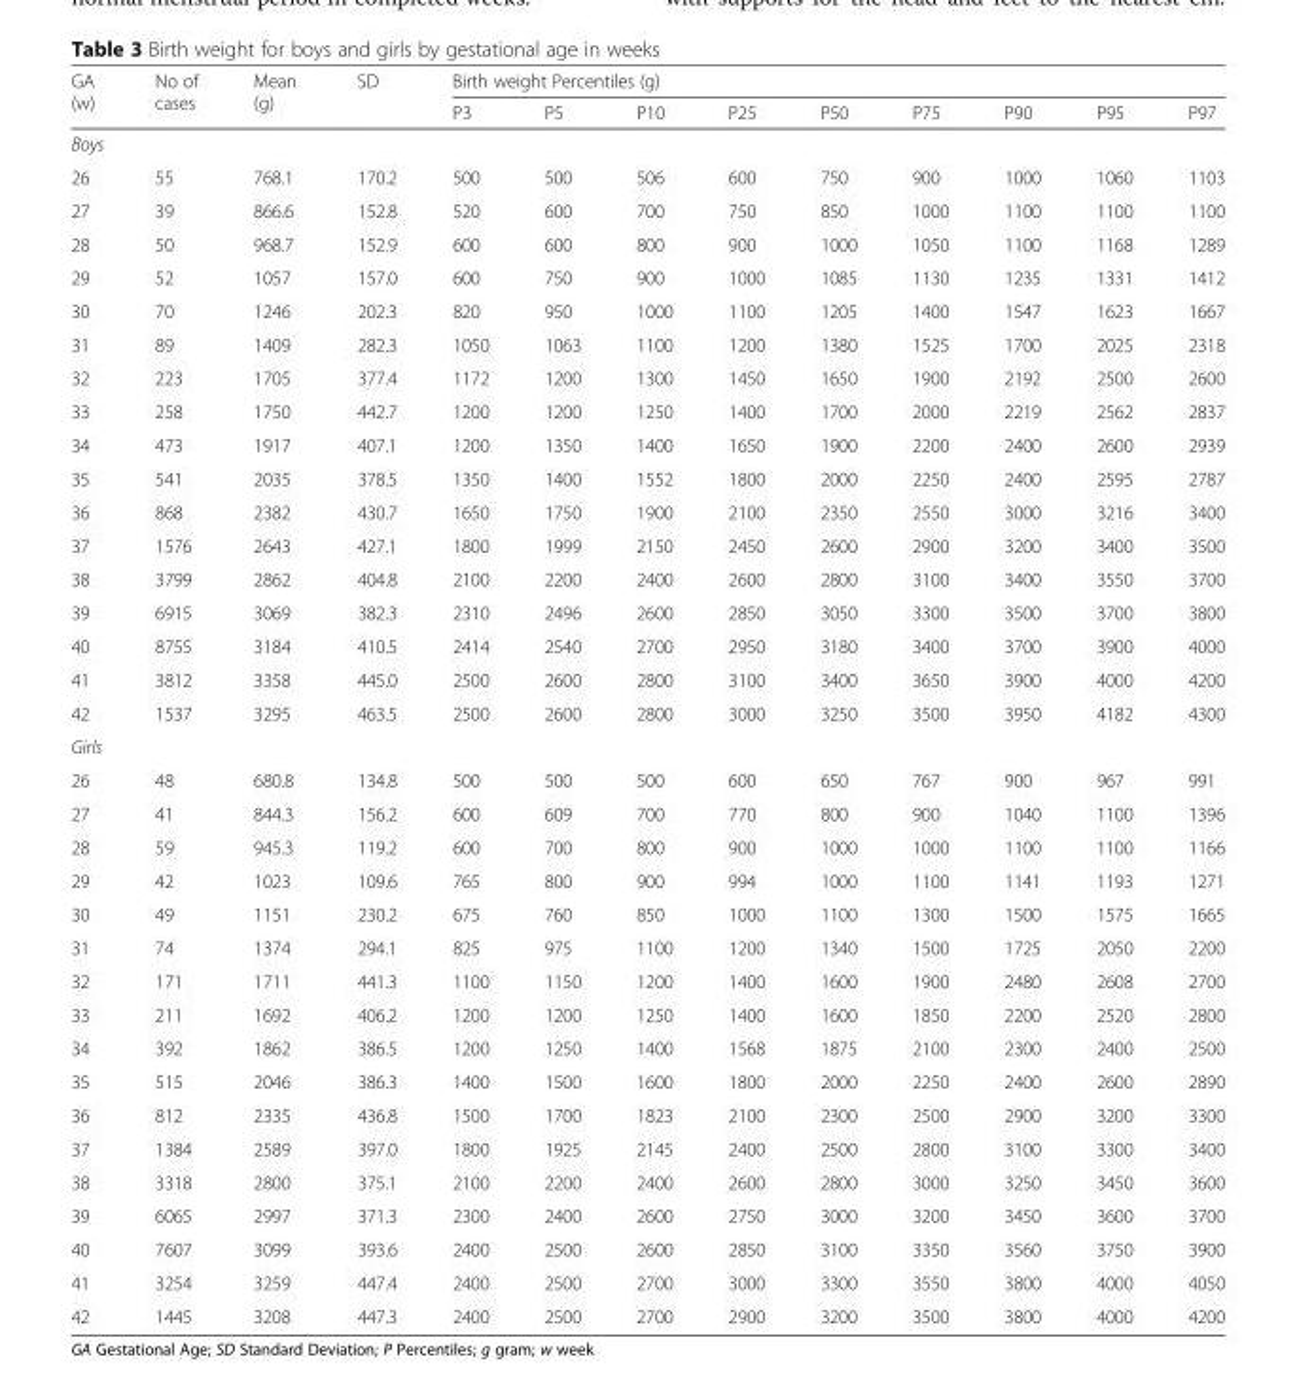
<table><thead><tr><td rowspan="2">GA (w)</td><td rowspan="2">No of cases</td><td rowspan="2">Mean (g)</td><td rowspan="2">SD</td><td colspan="9">Birth weight Percentiles (g)</td></tr><tr><td>P3</td><td>P5</td><td>P10</td><td>P25</td><td>P50</td><td>P75</td><td>P90</td><td>P95</td><td>P97</td></tr></thead><tbody><tr><td colspan="13">Boys</td></tr><tr><td>26</td><td>55</td><td>768.1</td><td>170.2</td><td>500</td><td>500</td><td>506</td><td>600</td><td>750</td><td>900</td><td>1000</td><td>1060</td><td>1103</td></tr><tr><td>27</td><td>39</td><td>866.6</td><td>152.8</td><td>520</td><td>600</td><td>700</td><td>750</td><td>850</td><td>1000</td><td>1100</td><td>1100</td><td>1100</td></tr><tr><td>28</td><td>50</td><td>968.7</td><td>152.9</td><td>600</td><td>600</td><td>800</td><td>900</td><td>1000</td><td>1050</td><td>1100</td><td>1168</td><td>1289</td></tr><tr><td>29</td><td>52</td><td>1057</td><td>157.0</td><td>600</td><td>750</td><td>900</td><td>1000</td><td>1085</td><td>1130</td><td>1235</td><td>1331</td><td>1412</td></tr><tr><td>30</td><td>70</td><td>1246</td><td>202.3</td><td>820</td><td>950</td><td>1000</td><td>1100</td><td>1205</td><td>1400</td><td>1547</td><td>1623</td><td>1667</td></tr><tr><td>31</td><td>89</td><td>1409</td><td>282.3</td><td>1050</td><td>1063</td><td>1100</td><td>1200</td><td>1380</td><td>1525</td><td>1700</td><td>2025</td><td>2318</td></tr><tr><td>32</td><td>223</td><td>1705</td><td>377.4</td><td>1172</td><td>1200</td><td>1300</td><td>1450</td><td>1650</td><td>1900</td><td>2192</td><td>2500</td><td>2600</td></tr><tr><td>33</td><td>258</td><td>1750</td><td>442.7</td><td>1200</td><td>1200</td><td>1250</td><td>1400</td><td>1700</td><td>2000</td><td>2219</td><td>2562</td><td>2837</td></tr><tr><td>34</td><td>473</td><td>1917</td><td>407.1</td><td>1200</td><td>1350</td><td>1400</td><td>1650</td><td>1900</td><td>2200</td><td>2400</td><td>2600</td><td>2939</td></tr><tr><td>35</td><td>541</td><td>2035</td><td>378.5</td><td>1350</td><td>1400</td><td>1552</td><td>1800</td><td>2000</td><td>2250</td><td>2400</td><td>2595</td><td>2787</td></tr><tr><td>36</td><td>868</td><td>2382</td><td>430.7</td><td>1650</td><td>1750</td><td>1900</td><td>2100</td><td>2350</td><td>2550</td><td>3000</td><td>3216</td><td>3400</td></tr><tr><td>37</td><td>1576</td><td>2643</td><td>427.1</td><td>1800</td><td>1999</td><td>2150</td><td>2450</td><td>2600</td><td>2900</td><td>3200</td><td>3400</td><td>3500</td></tr><tr><td>38</td><td>3799</td><td>2862</td><td>404.8</td><td>2100</td><td>2200</td><td>2400</td><td>2600</td><td>2800</td><td>3100</td><td>3400</td><td>3550</td><td>3700</td></tr><tr><td>39</td><td>6915</td><td>3069</td><td>382.3</td><td>2310</td><td>2496</td><td>2600</td><td>2850</td><td>3050</td><td>3300</td><td>3500</td><td>3700</td><td>3800</td></tr><tr><td>40</td><td>8755</td><td>3184</td><td>410.5</td><td>2414</td><td>2540</td><td>2700</td><td>2950</td><td>3180</td><td>3400</td><td>3700</td><td>3900</td><td>4000</td></tr><tr><td>41</td><td>3812</td><td>3358</td><td>445.0</td><td>2500</td><td>2600</td><td>2800</td><td>3100</td><td>3400</td><td>3650</td><td>3900</td><td>4000</td><td>4200</td></tr><tr><td>42</td><td>1537</td><td>3295</td><td>463.5</td><td>2500</td><td>2600</td><td>2800</td><td>3000</td><td>3250</td><td>3500</td><td>3950</td><td>4182</td><td>4300</td></tr><tr><td colspan="13">Girls</td></tr><tr><td>26</td><td>48</td><td>680.8</td><td>134.8</td><td>500</td><td>500</td><td>500</td><td>600</td><td>650</td><td>767</td><td>900</td><td>967</td><td>991</td></tr><tr><td>27</td><td>41</td><td>844.3</td><td>156.2</td><td>600</td><td>609</td><td>700</td><td>770</td><td>800</td><td>900</td><td>1040</td><td>1100</td><td>1396</td></tr><tr><td>28</td><td>59</td><td>945.3</td><td>119.2</td><td>600</td><td>700</td><td>800</td><td>900</td><td>1000</td><td>1000</td><td>1100</td><td>1100</td><td>1166</td></tr><tr><td>29</td><td>42</td><td>1023</td><td>109.6</td><td>765</td><td>800</td><td>900</td><td>994</td><td>1000</td><td>1100</td><td>1141</td><td>1193</td><td>1271</td></tr><tr><td>30</td><td>49</td><td>1151</td><td>230.2</td><td>675</td><td>760</td><td>850</td><td>1000</td><td>1100</td><td>1300</td><td>1500</td><td>1575</td><td>1665</td></tr><tr><td>31</td><td>74</td><td>1374</td><td>294.1</td><td>825</td><td>975</td><td>1100</td><td>1200</td><td>1340</td><td>1500</td><td>1725</td><td>2050</td><td>2200</td></tr><tr><td>32</td><td>171</td><td>1711</td><td>441.3</td><td>1100</td><td>1150</td><td>1200</td><td>1400</td><td>1600</td><td>1900</td><td>2480</td><td>2608</td><td>2700</td></tr><tr><td>33</td><td>211</td><td>1692</td><td>406.2</td><td>1200</td><td>1200</td><td>1250</td><td>1400</td><td>1600</td><td>1850</td><td>2200</td><td>2520</td><td>2800</td></tr><tr><td>34</td><td>392</td><td>1862</td><td>386.5</td><td>1200</td><td>1250</td><td>1400</td><td>1568</td><td>1875</td><td>2100</td><td>2300</td><td>2400</td><td>2500</td></tr><tr><td>35</td><td>515</td><td>2046</td><td>386.3</td><td>1400</td><td>1500</td><td>1600</td><td>1800</td><td>2000</td><td>2250</td><td>2400</td><td>2600</td><td>2890</td></tr><tr><td>36</td><td>812</td><td>2335</td><td>436.8</td><td>1500</td><td>1700</td><td>1823</td><td>2100</td><td>2300</td><td>2500</td><td>2900</td><td>3200</td><td>3300</td></tr><tr><td>37</td><td>1384</td><td>2589</td><td>397.0</td><td>1800</td><td>1925</td><td>2145</td><td>2400</td><td>2500</td><td>2800</td><td>3100</td><td>3300</td><td>3400</td></tr><tr><td>38</td><td>3318</td><td>2800</td><td>375.1</td><td>2100</td><td>2200</td><td>2400</td><td>2600</td><td>2800</td><td>3000</td><td>3250</td><td>3450</td><td>3600</td></tr><tr><td>39</td><td>6065</td><td>2997</td><td>371.3</td><td>2300</td><td>2400</td><td>2600</td><td>2750</td><td>3000</td><td>3200</td><td>3450</td><td>3600</td><td>3700</td></tr><tr><td>40</td><td>7607</td><td>3099</td><td>393.6</td><td>2400</td><td>2500</td><td>2600</td><td>2850</td><td>3100</td><td>3350</td><td>3560</td><td>3750</td><td>3900</td></tr><tr><td>41</td><td>3254</td><td>3259</td><td>447.4</td><td>2400</td><td>2500</td><td>2700</td><td>3000</td><td>3300</td><td>3550</td><td>3800</td><td>4000</td><td>4050</td></tr><tr><td>42</td><td>1445</td><td>3208</td><td>447.3</td><td>2400</td><td>2500</td><td>2700</td><td>2900</td><td>3200</td><td>3500</td><td>3800</td><td>4000</td><td>4200</td></tr></tbody></table>